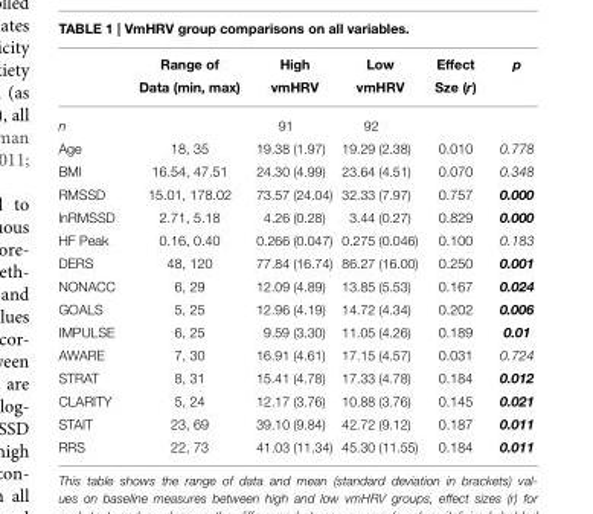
<table><thead><tr><td></td><td>Range of Data (min, max)</td><td>High vmHRV</td><td>Low vmHRV</td><td>Effect Sze (r)</td><td>p</td></tr></thead><tbody><tr><td>n</td><td></td><td>91</td><td>92</td><td></td><td></td></tr><tr><td>Age</td><td>18, 35</td><td>19.38 (1.97)</td><td>19.29 (2.38)</td><td>0.010</td><td>0.778</td></tr><tr><td>BMI</td><td>16.54, 47.51</td><td>24.30 (4.99)</td><td>23.64 (4.51)</td><td>0.070</td><td>0.348</td></tr><tr><td>RMSSD</td><td>15.01, 178.02</td><td>73.57 (24.04)</td><td>32.33 (7.97)</td><td>0.757</td><td>0.000</td></tr><tr><td>lnRMSSD</td><td>2.71, 5.18</td><td>4.26 (0.28)</td><td>3.44 (0.27)</td><td>0.829</td><td>0.000</td></tr><tr><td>HF Peak</td><td>0.16, 0.40</td><td>0.266 (0.047)</td><td>0.275 (0.046)</td><td>0.100</td><td>0.183</td></tr><tr><td>DERS</td><td>48, 120</td><td>77.84 (16.74)</td><td>86.27 (16.00)</td><td>0.250</td><td>0.001</td></tr><tr><td>NONACC</td><td>6, 29</td><td>12.09 (4.89)</td><td>13.85 (5.53)</td><td>0.167</td><td>0.024</td></tr><tr><td>GOALS</td><td>5, 25</td><td>12.96 (4.19)</td><td>14.72 (4.34)</td><td>0.202</td><td>0.006</td></tr><tr><td>IMPULSE</td><td>6, 25</td><td>9.59 (3.30)</td><td>11.05 (4.26)</td><td>0.189</td><td>0.01</td></tr><tr><td>AWARE</td><td>7, 30</td><td>16.91 (4.61)</td><td>17.15 (4.57)</td><td>0.031</td><td>0.724</td></tr><tr><td>STRAT</td><td>8, 31</td><td>15.41 (4.78)</td><td>17.33 (4.78)</td><td>0.184</td><td>0.012</td></tr><tr><td>CLARITY</td><td>5, 24</td><td>12.17 (3.76)</td><td>10.88 (3.76)</td><td>0.145</td><td>0.021</td></tr><tr><td>STAIT</td><td>23, 69</td><td>39.10 (9.84)</td><td>42.72 (9.12)</td><td>0.187</td><td>0.011</td></tr><tr><td>RRS</td><td>22, 73</td><td>41.03 (11.34)</td><td>45.30 (11.55)</td><td>0.184</td><td>0.011</td></tr></tbody></table>